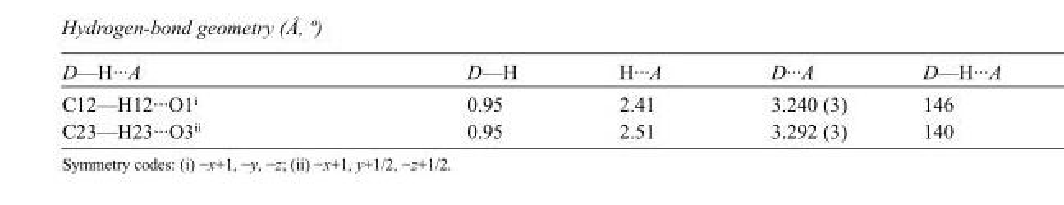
<table><tbody><tr><td>D—H···A</td><td>D—H</td><td>H···A</td><td>D···A</td><td>D—H···A</td></tr><tr><td>C12—H12···O1<sup>i</sup></td><td>0.95</td><td>2.41</td><td>3.240 (3)</td><td>146</td></tr><tr><td>C23—H23···O3<sup>ii</sup></td><td>0.95</td><td>2.51</td><td>3.292 (3)</td><td>140</td></tr></tbody></table>